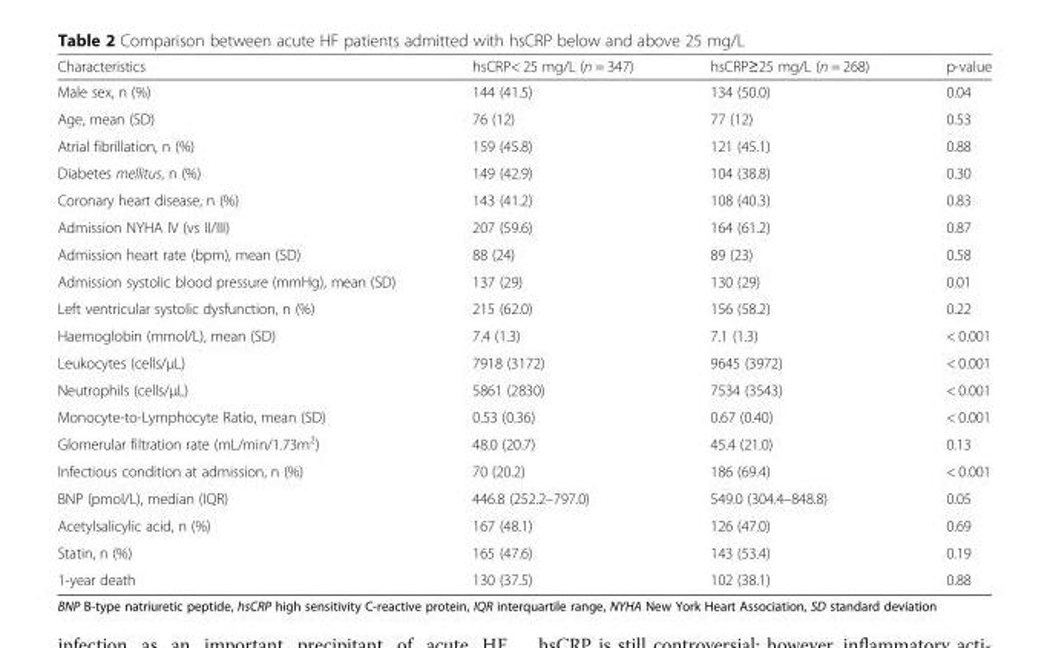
<table><thead><tr><td>Characteristics</td><td>hsCRP&lt; 25 mg/L (n = 347)</td><td>hsCRP≥25 mg/L (n = 268)</td><td>p-value</td></tr></thead><tbody><tr><td>Male sex, n (%)</td><td>144 (41.5)</td><td>134 (50.0)</td><td>0.04</td></tr><tr><td>Age, mean (SD)</td><td>76 (12)</td><td>77 (12)</td><td>0.53</td></tr><tr><td>Atrial fibrillation, n (%)</td><td>159 (45.8)</td><td>121 (45.1)</td><td>0.88</td></tr><tr><td>Diabetes mellitus, n (%)</td><td>149 (42.9)</td><td>104 (38.8)</td><td>0.30</td></tr><tr><td>Coronary heart disease, n (%)</td><td>143 (41.2)</td><td>108 (40.3)</td><td>0.83</td></tr><tr><td>Admission NYHA IV (vs II/III)</td><td>207 (59.6)</td><td>164 (61.2)</td><td>0.87</td></tr><tr><td>Admission heart rate (bpm), mean (SD)</td><td>88 (24)</td><td>89 (23)</td><td>0.58</td></tr><tr><td>Admission systolic blood pressure (mmHg), mean (SD)</td><td>137 (29)</td><td>130 (29)</td><td>0.01</td></tr><tr><td>Left ventricular systolic dysfunction, n (%)</td><td>215 (62.0)</td><td>156 (58.2)</td><td>0.22</td></tr><tr><td>Haemoglobin (mmol/L), mean (SD)</td><td>7.4 (1.3)</td><td>7.1 (1.3)</td><td>&lt; 0.001</td></tr><tr><td>Leukocytes (cells/μL)</td><td>7918 (3172)</td><td>9645 (3972)</td><td>&lt; 0.001</td></tr><tr><td>Neutrophils (cells/μL)</td><td>5861 (2830)</td><td>7534 (3543)</td><td>&lt; 0.001</td></tr><tr><td>Monocyte-to-Lymphocyte Ratio, mean (SD)</td><td>0.53 (0.36)</td><td>0.67 (0.40)</td><td>&lt; 0.001</td></tr><tr><td>Glomerular filtration rate (mL/min/1.73m<sup>2</sup>)</td><td>48.0 (20.7)</td><td>45.4 (21.0)</td><td>0.13</td></tr><tr><td>Infectious condition at admission, n (%)</td><td>70 (20.2)</td><td>186 (69.4)</td><td>&lt; 0.001</td></tr><tr><td>BNP (pmol/L), median (IQR)</td><td>446.8 (252.2–797.0)</td><td>549.0 (304.4–848.8)</td><td>0.05</td></tr><tr><td>Acetylsalicylic acid, n (%)</td><td>167 (48.1)</td><td>126 (47.0)</td><td>0.69</td></tr><tr><td>Statin, n (%)</td><td>165 (47.6)</td><td>143 (53.4)</td><td>0.19</td></tr><tr><td>1-year death</td><td>130 (37.5)</td><td>102 (38.1)</td><td>0.88</td></tr></tbody></table>